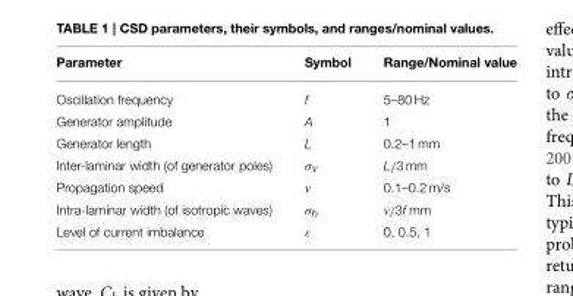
<table><thead><tr><td>Parameter</td><td>Symbol</td><td>Range/Nominal value</td></tr></thead><tbody><tr><td>Oscillation frequency</td><td>f</td><td>5–80 Hz</td></tr><tr><td>Generator amplitude</td><td>A</td><td>1</td></tr><tr><td>Generator length</td><td>L</td><td>0.2–1 mm</td></tr><tr><td>Inter-laminar width (of generator poles)</td><td><sup>σ</sup>v</td><td>L/3 mm</td></tr><tr><td>Propagation speed</td><td>v</td><td>0.1–0.2 m/s</td></tr><tr><td>Intra-laminar width (of isotropic waves)</td><td><sup>σ</sup>h</td><td>v/3f mm</td></tr><tr><td>Level of current imbalance</td><td>ε</td><td>0, 0.5, 1</td></tr></tbody></table>